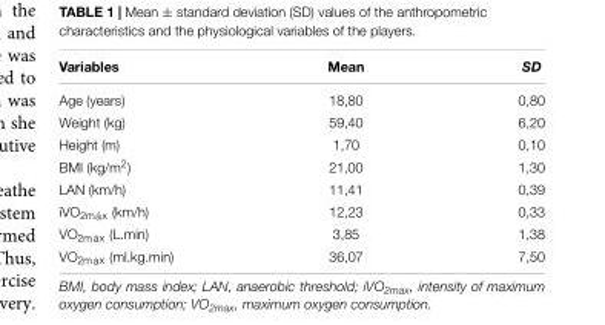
<table><thead><tr><td>Variables</td><td>Mean</td><td>SD</td></tr></thead><tbody><tr><td>Age (years)</td><td>18,80</td><td>0,80</td></tr><tr><td>Weight (kg)</td><td>59,40</td><td>6,20</td></tr><tr><td>Height (m)</td><td>1,70</td><td>0,10</td></tr><tr><td>BMI (kg/m<sup>2</sup>)</td><td>21,00</td><td>1,30</td></tr><tr><td>LAN (km/h)</td><td>11,41</td><td>0,39</td></tr><tr><td>iVO<sub>2máx</sub> (km/h)</td><td>12,23</td><td>0,33</td></tr><tr><td>VO<sub>2máx</sub> (L.min)</td><td>3,85</td><td>1,38</td></tr><tr><td>VO<sub>2máx</sub> (ml.kg.min)</td><td>36,07</td><td>7,50</td></tr></tbody></table>